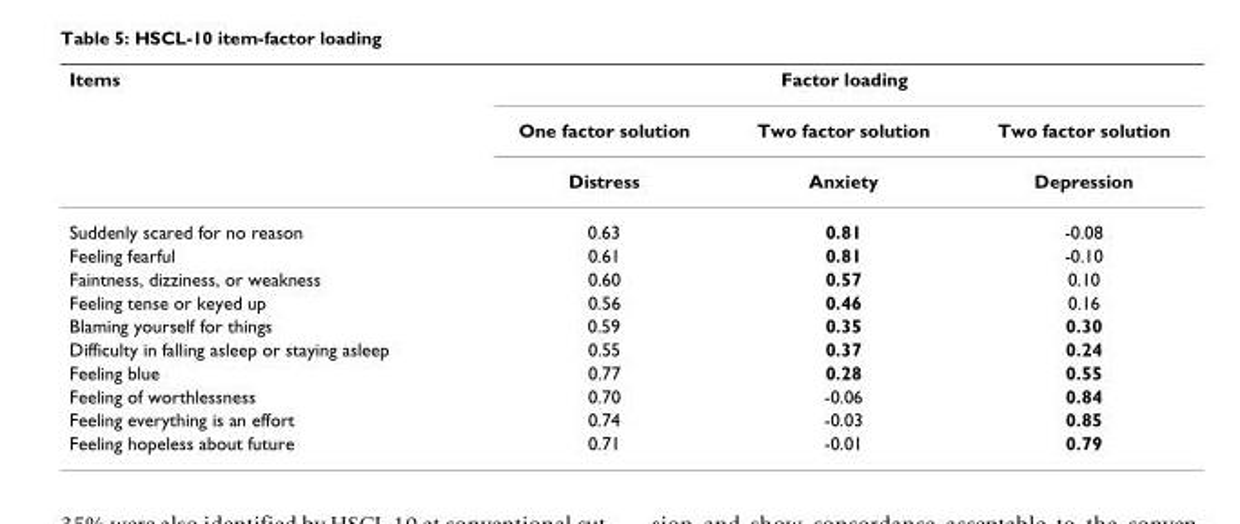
<table><thead><tr><td rowspan="3">Items</td><td colspan="3">Factor loading</td></tr><tr><td rowspan="2">One factor solution Distress</td><td rowspan="2">Two factor solution Anxiety</td><td rowspan="2">Two factor solution Depression</td></tr><tr></tr></thead><tbody><tr><td>Suddenly scared for no reason</td><td>0.63</td><td>0.81</td><td>-0.08</td></tr><tr><td>Feeling fearful</td><td>0.61</td><td>0.81</td><td>-0.10</td></tr><tr><td>Faintness, dizziness, or weakness</td><td>0.60</td><td>0.57</td><td>0.10</td></tr><tr><td>Feeling tense or keyed up</td><td>0.56</td><td>0.46</td><td>0.16</td></tr><tr><td>Blaming yourself for things</td><td>0.59</td><td>0.35</td><td>0.30</td></tr><tr><td>Difficulty in falling asleep or staying asleep</td><td>0.55</td><td>0.37</td><td>0.24</td></tr><tr><td>Feeling blue</td><td>0.77</td><td>0.28</td><td>0.55</td></tr><tr><td>Feeling of worthlessness</td><td>0.70</td><td>-0.06</td><td>0.84</td></tr><tr><td>Feeling everything is an effort</td><td>0.74</td><td>-0.03</td><td>0.85</td></tr><tr><td>Feeling hopeless about future</td><td>0.71</td><td>-0.01</td><td>0.79</td></tr></tbody></table>